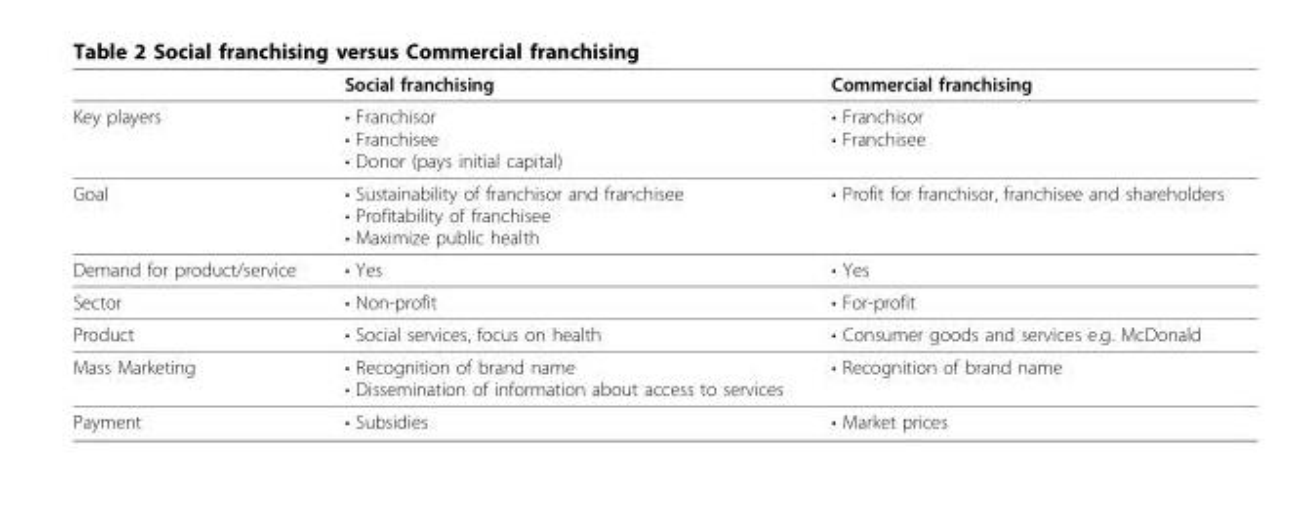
<table><thead><tr><td></td><td>Social franchising</td><td>Commercial franchising</td></tr></thead><tbody><tr><td>Key players</td><td>• Franchisor • Franchisee • Donor (pays initial capital)</td><td>• Franchisor • Franchisee</td></tr><tr><td>Goal</td><td>• Sustainability of franchisor and franchisee • Profitability of franchisee • Maximize public health</td><td>• Profit for franchisor, franchisee and shareholders</td></tr><tr><td>Demand for product/service</td><td>• Yes</td><td>• Yes</td></tr><tr><td>Sector</td><td>• Non-profit</td><td>• For-profit</td></tr><tr><td>Product</td><td>• Social services, focus on health</td><td>• Consumer goods and services e.g. McDonald</td></tr><tr><td>Mass Marketing</td><td>• Recognition of brand name • Dissemination of information about access to services</td><td>• Recognition of brand name</td></tr><tr><td>Payment</td><td>• Subsidies</td><td>• Market prices</td></tr></tbody></table>